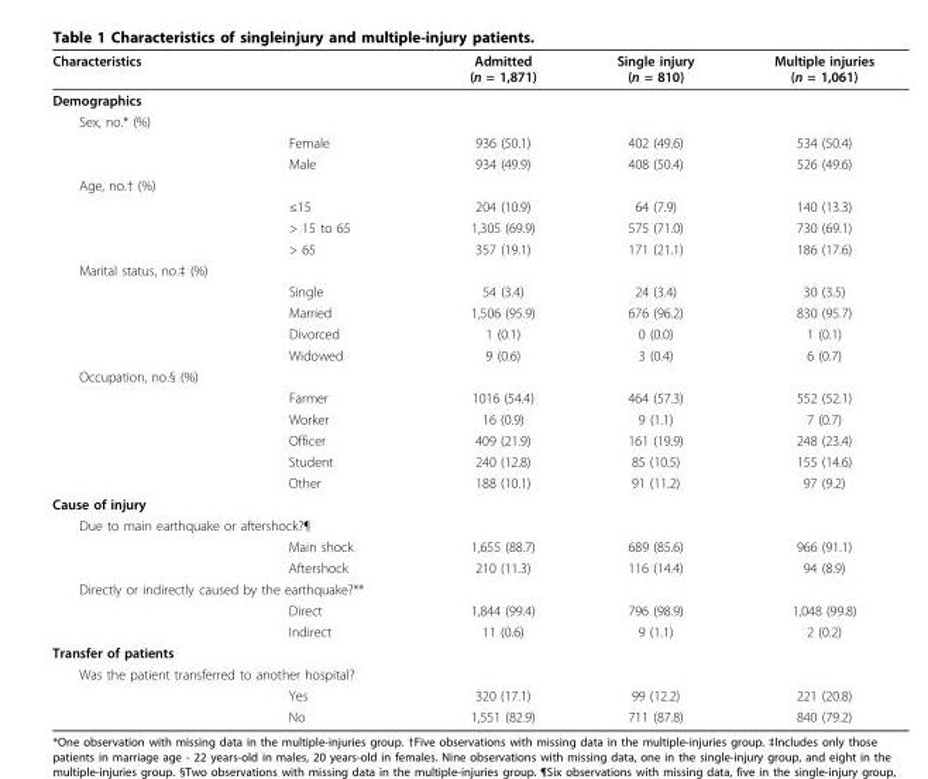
<table><thead><tr><td>Characteristics</td><td></td><td>Admitted (n = 1,871)</td><td>Single injury (n = 810)</td><td>Multiple injuries (n = 1,061)</td></tr></thead><tbody><tr><td colspan="5">Demographics</td></tr><tr><td colspan="5">Sex, no.* (%)</td></tr><tr><td></td><td>Female</td><td>936 (50.1)</td><td>402 (49.6)</td><td>534 (50.4)</td></tr><tr><td></td><td>Male</td><td>934 (49.9)</td><td>408 (50.4)</td><td>526 (49.6)</td></tr><tr><td colspan="5">Age, no.† (%)</td></tr><tr><td></td><td>≤15</td><td>204 (10.9)</td><td>64 (7.9)</td><td>140 (13.3)</td></tr><tr><td></td><td>&gt; 15 to 65</td><td>1,305 (69.9)</td><td>575 (71.0)</td><td>730 (69.1)</td></tr><tr><td></td><td>&gt; 65</td><td>357 (19.1)</td><td>171 (21.1)</td><td>186 (17.6)</td></tr><tr><td colspan="5">Marital status, no.‡ (%)</td></tr><tr><td></td><td>Single</td><td>54 (3.4)</td><td>24 (3.4)</td><td>30 (3.5)</td></tr><tr><td></td><td>Married</td><td>1,506 (95.9)</td><td>676 (96.2)</td><td>830 (95.7)</td></tr><tr><td></td><td>Divorced</td><td>1 (0.1)</td><td>0 (0.0)</td><td>1 (0.1)</td></tr><tr><td></td><td>Widowed</td><td>9 (0.6)</td><td>3 (0.4)</td><td>6 (0.7)</td></tr><tr><td colspan="5">Occupation, no.§ (%)</td></tr><tr><td></td><td>Farmer</td><td>1016 (54.4)</td><td>464 (57.3)</td><td>552 (52.1)</td></tr><tr><td></td><td>Worker</td><td>16 (0.9)</td><td>9 (1.1)</td><td>7 (0.7)</td></tr><tr><td></td><td>Officer</td><td>409 (21.9)</td><td>161 (19.9)</td><td>248 (23.4)</td></tr><tr><td></td><td>Student</td><td>240 (12.8)</td><td>85 (10.5)</td><td>155 (14.6)</td></tr><tr><td></td><td>Other</td><td>188 (10.1)</td><td>91 (11.2)</td><td>97 (9.2)</td></tr><tr><td colspan="5">Cause of injury</td></tr><tr><td colspan="5">Due to main earthquake or aftershock?¶</td></tr><tr><td></td><td>Main shock</td><td>1,655 (88.7)</td><td>689 (85.6)</td><td>966 (91.1)</td></tr><tr><td></td><td>Aftershock</td><td>210 (11.3)</td><td>116 (14.4)</td><td>94 (8.9)</td></tr><tr><td colspan="5">Directly or indirectly caused by the earthquake?**</td></tr><tr><td></td><td>Direct</td><td>1,844 (99.4)</td><td>796 (98.9)</td><td>1,048 (99.8)</td></tr><tr><td></td><td>Indirect</td><td>11 (0.6)</td><td>9 (1.1)</td><td>2 (0.2)</td></tr><tr><td colspan="5">Transfer of patients</td></tr><tr><td colspan="5">Was the patient transferred to another hospital?</td></tr><tr><td></td><td>Yes</td><td>320 (17.1)</td><td>99 (12.2)</td><td>221 (20.8)</td></tr><tr><td></td><td>No</td><td>1,551 (82.9)</td><td>711 (87.8)</td><td>840 (79.2)</td></tr></tbody></table>